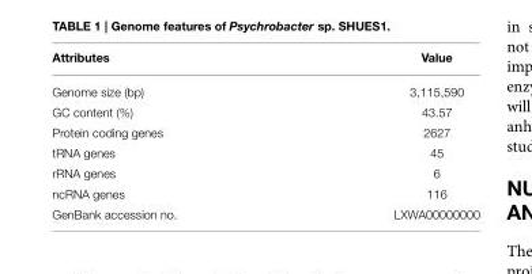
<table><thead><tr><td>Attributes</td><td>Value</td></tr></thead><tbody><tr><td>Genome size (bp)</td><td>3,115,590</td></tr><tr><td>GC content (%)</td><td>43.57</td></tr><tr><td>Protein coding genes</td><td>2627</td></tr><tr><td>tRNA genes</td><td>45</td></tr><tr><td>rRNA genes</td><td>6</td></tr><tr><td>ncRNA genes</td><td>116</td></tr><tr><td>GenBank accession no.</td><td>LXWA00000000</td></tr></tbody></table>